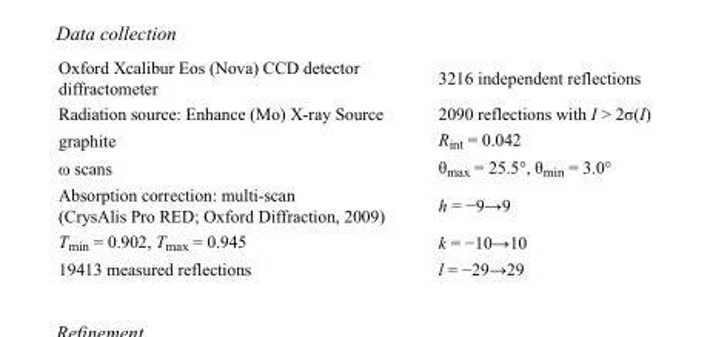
<table><tbody><tr><td>Oxford Xcalibur Eos (Nova) CCD detector diffractometer</td><td>3216 independent reflections</td></tr><tr><td>Radiation source: Enhance (Mo) X-ray Source</td><td>2090 reflections with I &gt; 2σ(I)</td></tr><tr><td>graphite</td><td>R<sub>int</sub> = 0.042</td></tr><tr><td>ω scans</td><td>θ<sub>max</sub> = 25.5°, θ<sub>min</sub> = 3.0°</td></tr><tr><td>Absorption correction: multi-scan (CrysAlis Pro RED; Oxford Diffraction, 2009)</td><td>h = −9→9</td></tr><tr><td>T<sub>min</sub> = 0.902, T<sub>max</sub> = 0.945</td><td>k = −10→10</td></tr><tr><td>19413 measured reflections</td><td>l = −29→29</td></tr></tbody></table>